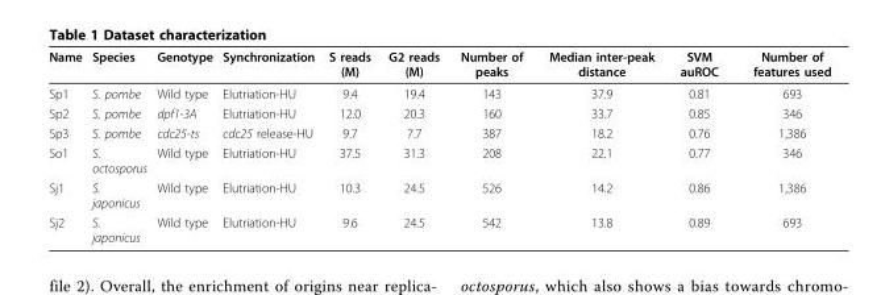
<table><thead><tr><td>Name</td><td>Species</td><td>Genotype</td><td>Synchronization</td><td>S reads (M)</td><td>G2 reads (M)</td><td>Number of peaks</td><td>Median inter-peak distance</td><td>SVM auROC</td><td>Number of features used</td></tr></thead><tbody><tr><td>Sp1</td><td>S. pombe</td><td>Wild type</td><td>Elutriation-HU</td><td>9.4</td><td>19.4</td><td>143</td><td>37.9</td><td>0.81</td><td>693</td></tr><tr><td>Sp2</td><td>S. pombe</td><td>dpf1-3A</td><td>Elutriation-HU</td><td>12.0</td><td>20.3</td><td>160</td><td>33.7</td><td>0.85</td><td>346</td></tr><tr><td>Sp3</td><td>S. pombe</td><td>cdc25-ts</td><td>cdc25 release-HU</td><td>9.7</td><td>7.7</td><td>387</td><td>18.2</td><td>0.76</td><td>1,386</td></tr><tr><td>So1</td><td>S. octosporus</td><td>Wild type</td><td>Elutriation-HU</td><td>37.5</td><td>31.3</td><td>208</td><td>22.1</td><td>0.77</td><td>346</td></tr><tr><td>Sj1</td><td>S. japonicus</td><td>Wild type</td><td>Elutriation-HU</td><td>10.3</td><td>24.5</td><td>526</td><td>14.2</td><td>0.86</td><td>1,386</td></tr><tr><td>Sj2</td><td>S. japonicus</td><td>Wild type</td><td>Elutriation-HU</td><td>9.6</td><td>24.5</td><td>542</td><td>13.8</td><td>0.89</td><td>693</td></tr></tbody></table>